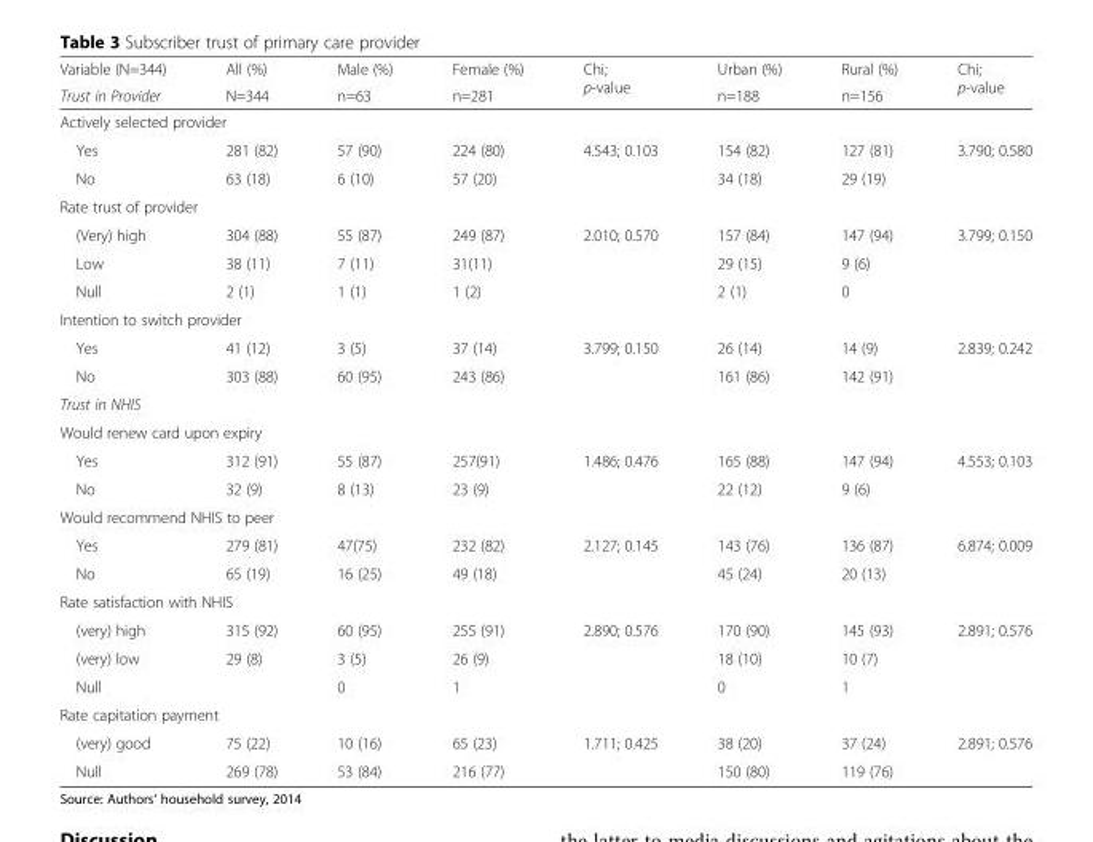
<table><thead><tr><td rowspan="2">Variable (N=344) Trust in Provider</td><td rowspan="2">All (%) N=344</td><td rowspan="2">Male (%) n=63</td><td rowspan="2">Female (%) n=281</td><td rowspan="2">Chi; p-value</td><td rowspan="2">Urban (%) n=188</td><td rowspan="2">Rural (%) n=156</td><td rowspan="2">Chi; p-value</td></tr><tr></tr></thead><tbody><tr><td colspan="8">Actively selected provider</td></tr><tr><td>Yes</td><td>281 (82)</td><td>57 (90)</td><td>224 (80)</td><td rowspan="2">4.543; 0.103</td><td>154 (82)</td><td>127 (81)</td><td rowspan="2">3.790; 0.580</td></tr><tr><td>No</td><td>63 (18)</td><td>6 (10)</td><td>57 (20)</td><td>34 (18)</td><td>29 (19)</td></tr><tr><td colspan="8">Rate trust of provider</td></tr><tr><td>(Very) high</td><td>304 (88)</td><td>55 (87)</td><td>249 (87)</td><td rowspan="3">2.010; 0.570</td><td>157 (84)</td><td>147 (94)</td><td rowspan="3">3.799; 0.150</td></tr><tr><td>Low</td><td>38 (11)</td><td>7 (11)</td><td>31(11)</td><td>29 (15)</td><td>9 (6)</td></tr><tr><td>Null</td><td>2 (1)</td><td>1 (1)</td><td>1 (2)</td><td>2 (1)</td><td>0</td></tr><tr><td colspan="8">Intention to switch provider</td></tr><tr><td>Yes</td><td>41 (12)</td><td>3 (5)</td><td>37 (14)</td><td rowspan="2">3.799; 0.150</td><td>26 (14)</td><td>14 (9)</td><td rowspan="2">2.839; 0.242</td></tr><tr><td>No</td><td>303 (88)</td><td>60 (95)</td><td>243 (86)</td><td>161 (86)</td><td>142 (91)</td></tr><tr><td colspan="8">Trust in NHIS</td></tr><tr><td colspan="8">Would renew card upon expiry</td></tr><tr><td>Yes</td><td>312 (91)</td><td>55 (87)</td><td>257(91)</td><td rowspan="2">1.486; 0.476</td><td>165 (88)</td><td>147 (94)</td><td rowspan="2">4.553; 0.103</td></tr><tr><td>No</td><td>32 (9)</td><td>8 (13)</td><td>23 (9)</td><td>22 (12)</td><td>9 (6)</td></tr><tr><td colspan="8">Would recommend NHIS to peer</td></tr><tr><td>Yes</td><td>279 (81)</td><td>47(75)</td><td>232 (82)</td><td rowspan="2">2.127; 0.145</td><td>143 (76)</td><td>136 (87)</td><td rowspan="2">6.874; 0.009</td></tr><tr><td>No</td><td>65 (19)</td><td>16 (25)</td><td>49 (18)</td><td>45 (24)</td><td>20 (13)</td></tr><tr><td colspan="8">Rate satisfaction with NHIS</td></tr><tr><td>(very) high</td><td>315 (92)</td><td>60 (95)</td><td>255 (91)</td><td rowspan="3">2.890; 0.576</td><td>170 (90)</td><td>145 (93)</td><td rowspan="3">2.891; 0.576</td></tr><tr><td>(very) low</td><td>29 (8)</td><td>3 (5)</td><td>26 (9)</td><td>18 (10)</td><td>10 (7)</td></tr><tr><td>Null</td><td></td><td>0</td><td>1</td><td>0</td><td>1</td></tr><tr><td colspan="8">Rate capitation payment</td></tr><tr><td>(very) good</td><td>75 (22)</td><td>10 (16)</td><td>65 (23)</td><td rowspan="2">1.711; 0.425</td><td>38 (20)</td><td>37 (24)</td><td rowspan="2">2.891; 0.576</td></tr><tr><td>Null</td><td>269 (78)</td><td>53 (84)</td><td>216 (77)</td><td>150 (80)</td><td>119 (76)</td></tr></tbody></table>